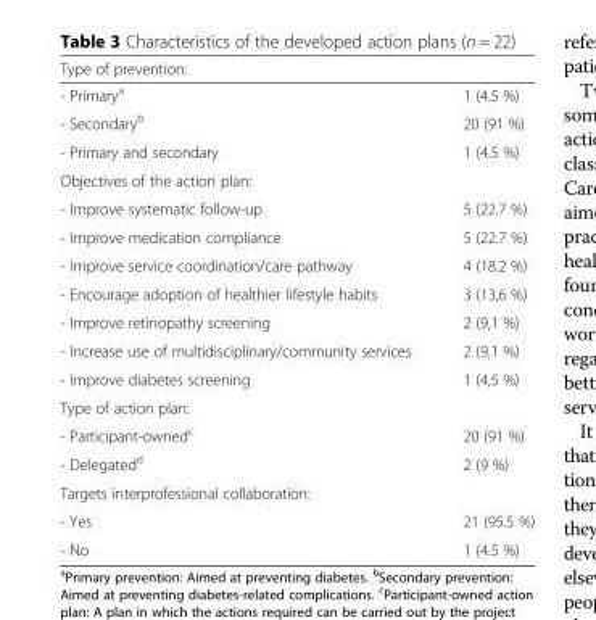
<table><thead><tr><td>Type of prevention:</td><td></td></tr></thead><tbody><tr><td>- Primary<sup>a</sup></td><td>1 (4.5 %)</td></tr><tr><td>- Secondary<sup>b</sup></td><td>20 (91 %)</td></tr><tr><td>- Primary and secondary</td><td>1 (4.5 %)</td></tr><tr><td colspan="2">Objectives of the action plan:</td></tr><tr><td>- Improve systematic follow-up</td><td>5 (22.7 %)</td></tr><tr><td>- Improve medication compliance</td><td>5 (22.7 %)</td></tr><tr><td>- Improve service coordination/care pathway</td><td>4 (18.2 %)</td></tr><tr><td>- Encourage adoption of healthier lifestyle habits</td><td>3 (13,6 %)</td></tr><tr><td>- Improve retinopathy screening</td><td>2 (9,1 %)</td></tr><tr><td>- Increase use of multidisciplinary/community services</td><td>2 (9,1 %)</td></tr><tr><td>- Improve diabetes screening</td><td>1 (4,5 %)</td></tr><tr><td colspan="2">Type of action plan:</td></tr><tr><td>- Participant-owned<sup>c</sup></td><td>20 (91 %)</td></tr><tr><td>- Delegated<sup>d</sup></td><td>2 (9 %)</td></tr><tr><td colspan="2">Targets interprofessional collaboration:</td></tr><tr><td>- Yes</td><td>21 (95.5 %)</td></tr><tr><td>- No</td><td>1 (4.5 %)</td></tr></tbody></table>